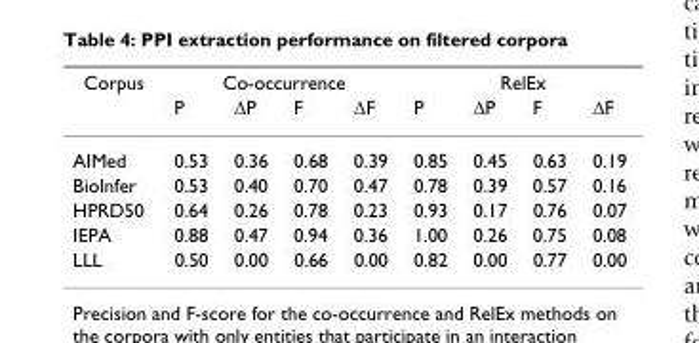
<table><thead><tr><td rowspan="2">Corpus</td><td colspan="4">Co-occurrence</td><td colspan="4">RelEx</td></tr><tr><td>P</td><td>ΔP</td><td>F</td><td>ΔF</td><td>P</td><td>ΔP</td><td>F</td><td>ΔF</td></tr></thead><tbody><tr><td>AIMed</td><td>0.53</td><td>0.36</td><td>0.68</td><td>0.39</td><td>0.85</td><td>0.45</td><td>0.63</td><td>0.19</td></tr><tr><td>BioInfer</td><td>0.53</td><td>0.40</td><td>0.70</td><td>0.47</td><td>0.78</td><td>0.39</td><td>0.57</td><td>0.16</td></tr><tr><td>HPRD50</td><td>0.64</td><td>0.26</td><td>0.78</td><td>0.23</td><td>0.93</td><td>0.17</td><td>0.76</td><td>0.07</td></tr><tr><td>IEPA</td><td>0.88</td><td>0.47</td><td>0.94</td><td>0.36</td><td>1.00</td><td>0.26</td><td>0.75</td><td>0.08</td></tr><tr><td>LLL</td><td>0.50</td><td>0.00</td><td>0.66</td><td>0.00</td><td>0.82</td><td>0.00</td><td>0.77</td><td>0.00</td></tr></tbody></table>